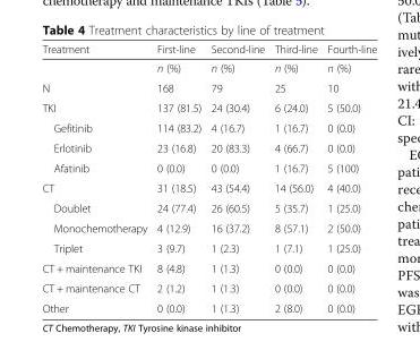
<table><thead><tr><td>Treatment</td><td>First-line</td><td>Second-line</td><td>Third-line</td><td>Fourth-line</td></tr></thead><tbody><tr><td></td><td>n (%)</td><td>n (%)</td><td>n (%)</td><td>n (%)</td></tr><tr><td>N</td><td>168</td><td>79</td><td>25</td><td>10</td></tr><tr><td>TKI</td><td>137 (81.5)</td><td>24 (30.4)</td><td>6 (24.0)</td><td>5 (50.0)</td></tr><tr><td>Gefitinib</td><td>114 (83.2)</td><td>4 (16.7)</td><td>1 (16.7)</td><td>0 (0.0)</td></tr><tr><td>Erlotinib</td><td>23 (16.8)</td><td>20 (83.3)</td><td>4 (66.7)</td><td>0 (0.0)</td></tr><tr><td>Afatinib</td><td>0 (0.0)</td><td>0 (0.0)</td><td>1 (16.7)</td><td>5 (100)</td></tr><tr><td>CT</td><td>31 (18.5)</td><td>43 (54.4)</td><td>14 (56.0)</td><td>4 (40.0)</td></tr><tr><td>Doublet</td><td>24 (77.4)</td><td>26 (60.5)</td><td>5 (35.7)</td><td>1 (25.0)</td></tr><tr><td>Monochemotherapy</td><td>4 (12.9)</td><td>16 (37.2)</td><td>8 (57.1)</td><td>2 (50.0)</td></tr><tr><td>Triplet</td><td>3 (9.7)</td><td>1 (2.3)</td><td>1 (7.1)</td><td>1 (25.0)</td></tr><tr><td>CT + maintenance TKI</td><td>8 (4.8)</td><td>1 (1.3)</td><td>0 (0.0)</td><td>0 (0.0)</td></tr><tr><td>CT + maintenance CT</td><td>2 (1.2)</td><td>1 (1.3)</td><td>0 (0.0)</td><td>0 (0.0)</td></tr><tr><td>Other</td><td>0 (0.0)</td><td>1 (1.3)</td><td>2 (8.0)</td><td>0 (0.0)</td></tr></tbody></table>